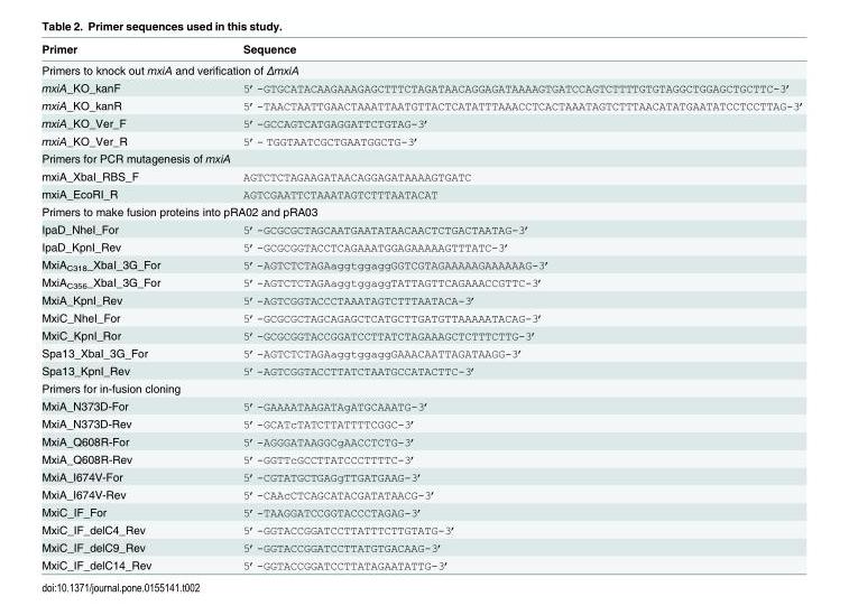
<table><thead><tr><td>Primer</td><td>Sequence</td></tr></thead><tbody><tr><td colspan="2">Primers to knock out mxiA and verification of ΔmxiA</td></tr><tr><td>mxiA_KO_kanF</td><td>5’-GTGCATACAAGAAAGAGCTTTCTAGATAACAGGAGATAAAAGTGATCCAGTCTTTTGTGTAGGCTGGAGCTGCTTC-3’</td></tr><tr><td>mxiA_KO_kanR</td><td>5’-TAACTAATTGAACTAAATTAATGTTACTCATATTTAAACCTCACTAAATAGTCTTTAACATATGAATATCCTCCTTAG-3’</td></tr><tr><td>mxiA_KO_Ver_F</td><td>5’-GCCAGTCATGAGGATTCTGTAG-3’</td></tr><tr><td>mxiA_KO_Ver_R</td><td>5’- TGGTAATCGCTGAATGGCTG-3’</td></tr><tr><td colspan="2">Primers for PCR mutagenesis of mxiA</td></tr><tr><td>mxiA_XbaI_RBS_F</td><td>AGTCTCTAGAAGATAACAGGAGATAAAAGTGATC</td></tr><tr><td>mxiA_EcoRI_R</td><td>AGTCGAATTCTAAATAGTCTTTAATACAT</td></tr><tr><td colspan="2">Primers to make fusion proteins into pRA02 and pRA03</td></tr><tr><td>IpaD_NheI_For</td><td>5’-GCGCGCTAGCAATGAATATAACAACTCTGACTAATAG-3’</td></tr><tr><td>IpaD_KpnI_Rev</td><td>5’-GCGCGGTACCTCAGAAATGGAGAAAAAGTTTATC-3’</td></tr><tr><td>MxiAC318_XbaI_3G_For</td><td>5’-AGTCTCTAGAaggtggaggGGTCGTAGAAAAAGAAAAAAG-3’</td></tr><tr><td>MxiAC356_XbaI_3G_For</td><td>5’-AGTCTCTAGAaggtggaggTATTAGTTCAGAAACCGTTC-3’</td></tr><tr><td>MxiA_KpnI_Rev</td><td>5’-AGTCGGTACCCTAAATAGTCTTTAATACA-3’</td></tr><tr><td>MxiC_NheI_For</td><td>5’-GCGCGCTAGCAGAGCTCATGCTTGATGTTAAAAATACAG-3’</td></tr><tr><td>MxiC_KpnI_Ror</td><td>5’-GCGCGGTACCGGATCCTTATCTAGAAAGCTCTTTCTTG-3’</td></tr><tr><td>Spa13_XbaI_3G_For</td><td>5’-AGTCTCTAGAaggtggaggGAAACAATTAGATAAGG-3’</td></tr><tr><td>Spa13_KpnI_Rev</td><td>5’-AGTCGGTACCTTATCTAATGCCATACTTC-3’</td></tr><tr><td colspan="2">Primers for in-fusion cloning</td></tr><tr><td>MxiA_N373D-For</td><td>5’-GAAAATAAGATAgATGCAAATG-3’</td></tr><tr><td>MxiA_N373D-Rev</td><td>5’-GCATcTATCTTATTTTCGGC-3’</td></tr><tr><td>MxiA_Q608R-For</td><td>5’-AGGGATAAGGCgAACCTCTG-3’</td></tr><tr><td>MxiA_Q608R-Rev</td><td>5’-GGTTcGCCTTATCCCTTTTC-3’</td></tr><tr><td>MxiA_I674V-For</td><td>5’-CGTATGCTGAGgTTGATGAAG-3’</td></tr><tr><td>MxiA_I674V-Rev</td><td>5’-CAAcCTCAGCATACGATATAACG-3’</td></tr><tr><td>MxiC_IF_For</td><td>5’-TAAGGATCCGGTACCCTAGAG-3’</td></tr><tr><td>MxiC_IF_delC4_Rev</td><td>5’-GGTACCGGATCCTTATTTCTTGTATG-3’</td></tr><tr><td>MxiC_IF_delC9_Rev</td><td>5’-GGTACCGGATCCTTATGTGACAAG-3’</td></tr><tr><td>MxiC_IF_delC14_Rev</td><td>5’-GGTACCGGATCCTTATAGAATATTG-3’</td></tr></tbody></table>